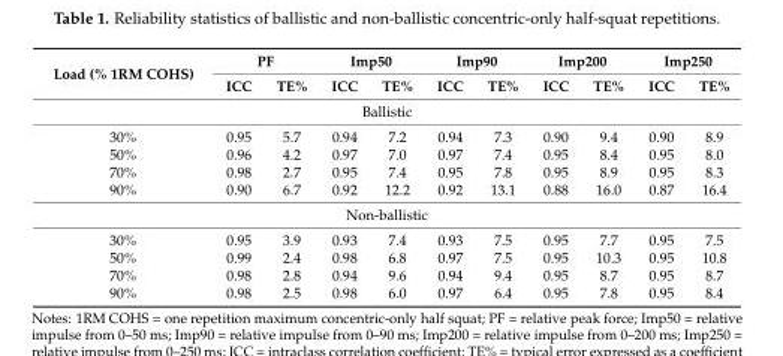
<table><thead><tr><td rowspan="2">Load (% 1RM COHS)</td><td colspan="2">PF</td><td colspan="2">Imp50</td><td colspan="2">Imp90</td><td colspan="2">Imp200</td><td colspan="2">Imp250</td></tr><tr><td>ICC</td><td>TE%</td><td>ICC</td><td>TE%</td><td>ICC</td><td>TE%</td><td>ICC</td><td>TE%</td><td>ICC</td><td>TE%</td></tr></thead><tbody><tr><td colspan="11">Ballistic</td></tr><tr><td>30%</td><td>0.95</td><td>5.7</td><td>0.94</td><td>7.2</td><td>0.94</td><td>7.3</td><td>0.90</td><td>9.4</td><td>0.90</td><td>8.9</td></tr><tr><td>50%</td><td>0.96</td><td>4.2</td><td>0.97</td><td>7.0</td><td>0.97</td><td>7.4</td><td>0.95</td><td>8.4</td><td>0.95</td><td>8.0</td></tr><tr><td>70%</td><td>0.98</td><td>2.7</td><td>0.95</td><td>7.4</td><td>0.95</td><td>7.8</td><td>0.95</td><td>8.9</td><td>0.95</td><td>8.3</td></tr><tr><td>90%</td><td>0.90</td><td>6.7</td><td>0.92</td><td>12.2</td><td>0.92</td><td>13.1</td><td>0.88</td><td>16.0</td><td>0.87</td><td>16.4</td></tr><tr><td colspan="11">Non-ballistic</td></tr><tr><td>30%</td><td>0.95</td><td>3.9</td><td>0.93</td><td>7.4</td><td>0.93</td><td>7.5</td><td>0.95</td><td>7.7</td><td>0.95</td><td>7.5</td></tr><tr><td>50%</td><td>0.99</td><td>2.4</td><td>0.98</td><td>6.8</td><td>0.97</td><td>7.5</td><td>0.95</td><td>10.3</td><td>0.95</td><td>10.8</td></tr><tr><td>70%</td><td>0.98</td><td>2.8</td><td>0.94</td><td>9.6</td><td>0.94</td><td>9.4</td><td>0.95</td><td>8.7</td><td>0.95</td><td>8.7</td></tr><tr><td>90%</td><td>0.98</td><td>2.5</td><td>0.98</td><td>6.0</td><td>0.97</td><td>6.4</td><td>0.95</td><td>7.8</td><td>0.95</td><td>8.4</td></tr></tbody></table>